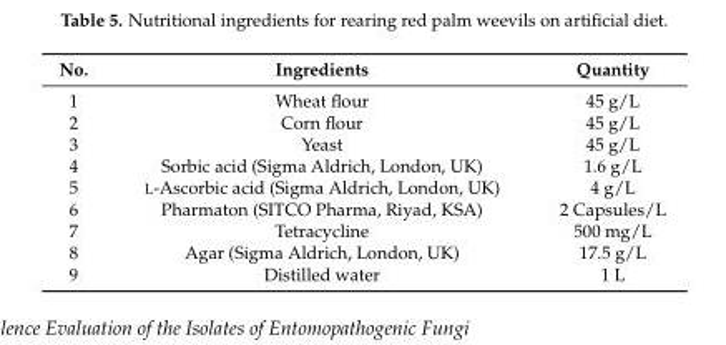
<table><thead><tr><td>No.</td><td>Ingredients</td><td>Quantity</td></tr></thead><tbody><tr><td>1</td><td>Wheat flour</td><td>45 g/L</td></tr><tr><td>2</td><td>Corn flour</td><td>45 g/L</td></tr><tr><td>3</td><td>Yeast</td><td>45 g/L</td></tr><tr><td>4</td><td>Sorbic acid (Sigma Aldrich, London, UK)</td><td>1.6 g/L</td></tr><tr><td>5</td><td>L-Ascorbic acid (Sigma Aldrich, London, UK)</td><td>4 g/L</td></tr><tr><td>6</td><td>Pharmaton (SITCO Pharma, Riyad, KSA)</td><td>2 Capsules/L</td></tr><tr><td>7</td><td>Tetracycline</td><td>500 mg/L</td></tr><tr><td>8</td><td>Agar (Sigma Aldrich, London, UK)</td><td>17.5 g/L</td></tr><tr><td>9</td><td>Distilled water</td><td>1 L</td></tr></tbody></table>